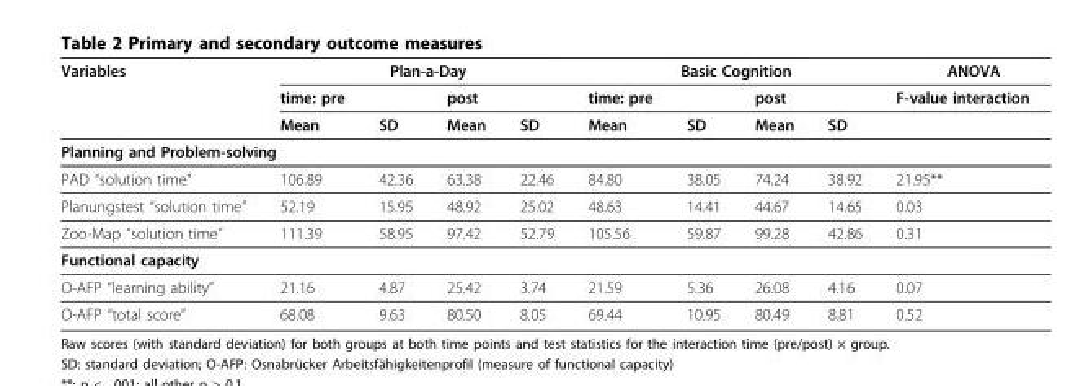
<table><thead><tr><td rowspan="3">Variables</td><td colspan="4">Plan-a-Day</td><td colspan="4">Basic Cognition</td><td rowspan="3">ANOVA F-value interaction</td></tr><tr><td rowspan="2">time: pre Mean</td><td rowspan="2">SD</td><td rowspan="2">post Mean</td><td rowspan="2">SD</td><td rowspan="2">time: pre Mean</td><td rowspan="2">SD</td><td rowspan="2">post Mean</td><td rowspan="2">SD</td></tr><tr></tr></thead><tbody><tr><td colspan="10">Planning and Problem-solving</td></tr><tr><td>PAD “solution time”</td><td>106.89</td><td>42.36</td><td>63.38</td><td>22.46</td><td>84.80</td><td>38.05</td><td>74.24</td><td>38.92</td><td>21.95**</td></tr><tr><td>Planungstest “solution time”</td><td>52.19</td><td>15.95</td><td>48.92</td><td>25.02</td><td>48.63</td><td>14.41</td><td>44.67</td><td>14.65</td><td>0.03</td></tr><tr><td>Zoo-Map “solution time”</td><td>111.39</td><td>58.95</td><td>97.42</td><td>52.79</td><td>105.56</td><td>59.87</td><td>99.28</td><td>42.86</td><td>0.31</td></tr><tr><td colspan="10">Functional capacity</td></tr><tr><td>O-AFP “learning ability”</td><td>21.16</td><td>4.87</td><td>25.42</td><td>3.74</td><td>21.59</td><td>5.36</td><td>26.08</td><td>4.16</td><td>0.07</td></tr><tr><td>O-AFP “total score”</td><td>68.08</td><td>9.63</td><td>80.50</td><td>8.05</td><td>69.44</td><td>10.95</td><td>80.49</td><td>8.81</td><td>0.52</td></tr></tbody></table>